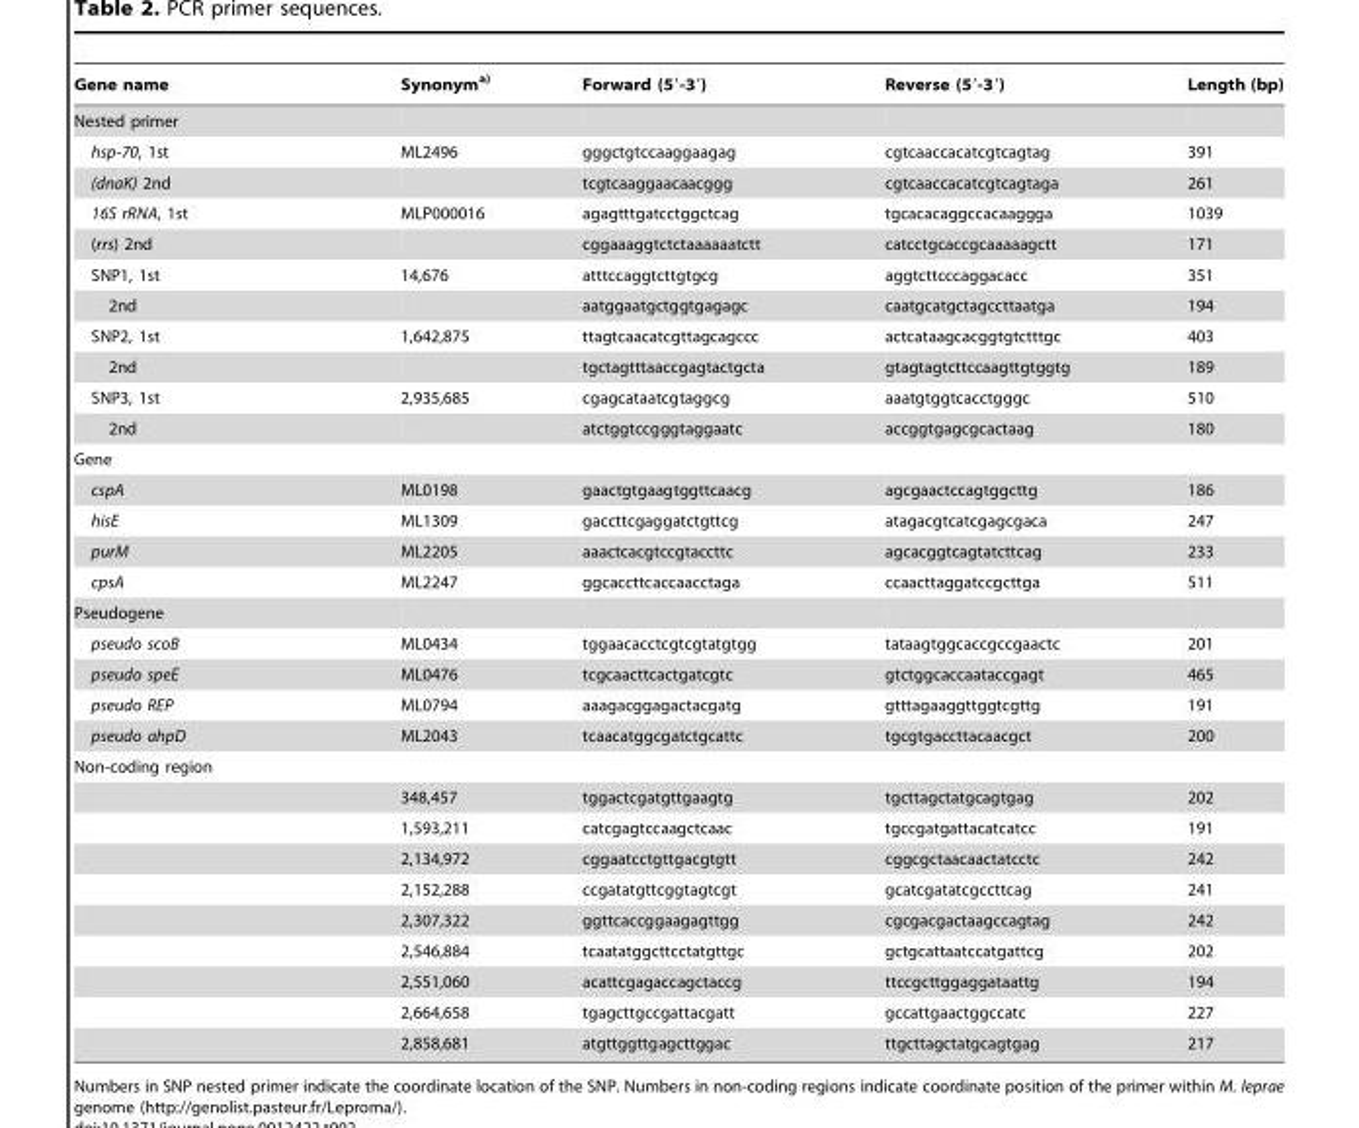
<table><thead><tr><td>Gene name</td><td>Synonym<sup>a)</sup></td><td>Forward (5′-3′)</td><td>Reverse (5′-3′)</td><td>Length (bp)</td></tr></thead><tbody><tr><td colspan="5">Nested primer</td></tr><tr><td>hsp-70, 1st</td><td>ML2496</td><td>gggctgtccaaggaagag</td><td>cgtcaaccacatcgtcagtag</td><td>391</td></tr><tr><td>(dnaK) 2nd</td><td></td><td>tcgtcaaggaacaacggg</td><td>cgtcaaccacatcgtcagtaga</td><td>261</td></tr><tr><td>16S rRNA, 1st</td><td>MLP000016</td><td>agagtttgatcctggctcag</td><td>tgcacacaggccacaaggga</td><td>1039</td></tr><tr><td>(rrs) 2nd</td><td></td><td>cggaaaggtctctaaaaaatctt</td><td>catcctgcaccgcaaaaagctt</td><td>171</td></tr><tr><td>SNP1, 1st</td><td>14,676</td><td>atttccaggtcttgtgcg</td><td>aggtcttcccaggacacc</td><td>351</td></tr><tr><td>2nd</td><td></td><td>aatggaatgctggtgagagc</td><td>caatgcatgctagccttaatga</td><td>194</td></tr><tr><td>SNP2, 1st</td><td>1,642,875</td><td>ttagtcaacatcgttagcagccc</td><td>actcataagcacggtgtctttgc</td><td>403</td></tr><tr><td>2nd</td><td></td><td>tgctagtttaaccgagtactgcta</td><td>gtagtagtcttccaagttgtggtg</td><td>189</td></tr><tr><td>SNP3, 1st</td><td>2,935,685</td><td>cgagcataatcgtaggcg</td><td>aaatgtggtcacctgggc</td><td>510</td></tr><tr><td>2nd</td><td></td><td>atctggtccgggtaggaatc</td><td>accggtgagcgcactaag</td><td>180</td></tr><tr><td colspan="5">Gene</td></tr><tr><td>cspA</td><td>ML0198</td><td>gaactgtgaagtggttcaacg</td><td>agcgaactccagtggcttg</td><td>186</td></tr><tr><td>hisE</td><td>ML1309</td><td>gaccttcgaggatctgttcg</td><td>atagacgtcatcgagcgaca</td><td>247</td></tr><tr><td>purM</td><td>ML2205</td><td>aaactcacgtccgtaccttc</td><td>agcacggtcagtatcttcag</td><td>233</td></tr><tr><td>cpsA</td><td>ML2247</td><td>ggcaccttcaccaacctaga</td><td>ccaacttaggatccgcttga</td><td>511</td></tr><tr><td colspan="5">Pseudogene</td></tr><tr><td>pseudo scoB</td><td>ML0434</td><td>tggaacacctcgtcgtatgtgg</td><td>tataagtggcaccgccgaactc</td><td>201</td></tr><tr><td>pseudo speE</td><td>ML0476</td><td>tcgcaacttcactgatcgtc</td><td>gtctggcaccaataccgagt</td><td>465</td></tr><tr><td>pseudo REP</td><td>ML0794</td><td>aaagacggagactacgatg</td><td>gtttagaaggttggtcgttg</td><td>191</td></tr><tr><td>pseudo ahpD</td><td>ML2043</td><td>tcaacatggcgatctgcattc</td><td>tgcgtgaccttacaacgct</td><td>200</td></tr><tr><td colspan="5">Non-coding region</td></tr><tr><td></td><td>348,457</td><td>tggactcgatgttgaagtg</td><td>tgcttagctatgcagtgag</td><td>202</td></tr><tr><td></td><td>1,593,211</td><td>catcgagtccaagctcaac</td><td>tgccgatgattacatcatcc</td><td>191</td></tr><tr><td></td><td>2,134,972</td><td>cggaatcctgttgacgtgtt</td><td>cggcgctaacaactatcctc</td><td>242</td></tr><tr><td></td><td>2,152,288</td><td>ccgatatgttcggtagtcgt</td><td>gcatcgatatcgccttcag</td><td>241</td></tr><tr><td></td><td>2,307,322</td><td>ggttcaccggaagagttgg</td><td>cgcgacgactaagccagtag</td><td>242</td></tr><tr><td></td><td>2,546,884</td><td>tcaatatggcttcctatgttgc</td><td>gctgcattaatccatgattcg</td><td>202</td></tr><tr><td></td><td>2,551,060</td><td>acattcgagaccagctaccg</td><td>ttccgcttggaggataattg</td><td>194</td></tr><tr><td></td><td>2,664,658</td><td>tgagcttgccgattacgatt</td><td>gccattgaactggccatc</td><td>227</td></tr><tr><td></td><td>2,858,681</td><td>atgttggttgagcttggac</td><td>ttgcttagctatgcagtgag</td><td>217</td></tr></tbody></table>